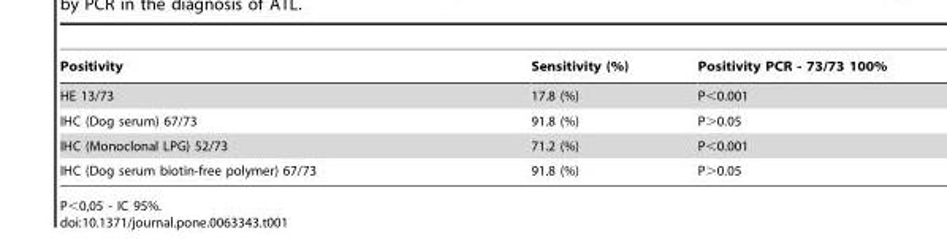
<table><thead><tr><td>Positivity</td><td>Sensitivity (%)</td><td>Positivity PCR - 73/73 100%</td></tr></thead><tbody><tr><td>HE 13/73</td><td>17.8 (%)</td><td>P&lt;0.001</td></tr><tr><td>IHC (Dog serum) 67/73</td><td>91.8 (%)</td><td>P&gt;0.05</td></tr><tr><td>IHC (Monoclonal LPG) 52/73</td><td>71.2 (%)</td><td>P&lt;0.001</td></tr><tr><td>IHC (Dog serum biotin-free polymer) 67/73</td><td>91.8 (%)</td><td>P&gt;0.05</td></tr></tbody></table>